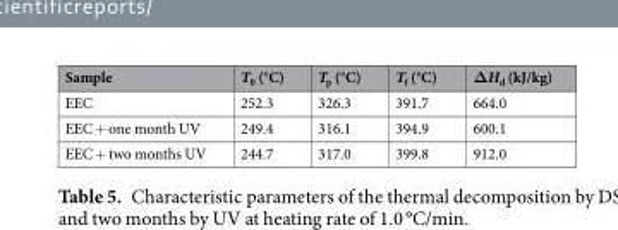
<table><thead><tr><td>Sample</td><td>T<sub>0</sub> (°C)</td><td>T<sub>p</sub> (°C)</td><td>T<sub>f</sub> (°C)</td><td>ΔH<sub>d</sub> (kJ/kg)</td></tr></thead><tbody><tr><td>EEC</td><td>252.3</td><td>326.3</td><td>391.7</td><td>664.0</td></tr><tr><td>EEC + one month UV</td><td>249.4</td><td>316.1</td><td>394.9</td><td>600.1</td></tr><tr><td>EEC + two months UV</td><td>244.7</td><td>317.0</td><td>399.8</td><td>912.0</td></tr></tbody></table>